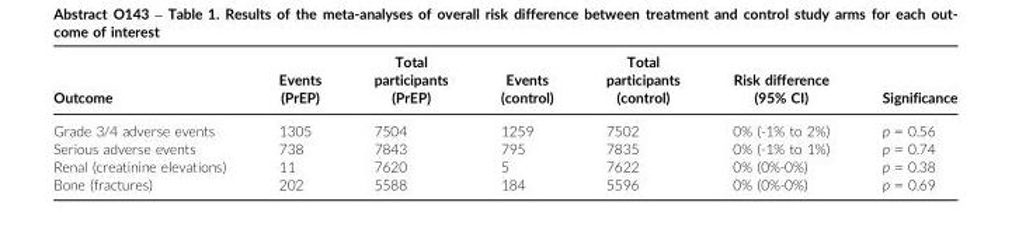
<table><thead><tr><td>Outcome</td><td>Events (PrEP)</td><td>Total participants (PrEP)</td><td>Events (control)</td><td>Total participants (control)</td><td>Risk difference (95% CI)</td><td>Significance</td></tr></thead><tbody><tr><td>Grade 3/4 adverse events</td><td>1305</td><td>7504</td><td>1259</td><td>7502</td><td>0% (-1% to 2%)</td><td>p = 0.56</td></tr><tr><td>Serious adverse events</td><td>738</td><td>7843</td><td>795</td><td>7835</td><td>0% (-1% to 1%)</td><td>p = 0.74</td></tr><tr><td>Renal (creatinine elevations)</td><td>11</td><td>7620</td><td>5</td><td>7622</td><td>0% (0%-0%)</td><td>p = 0.38</td></tr><tr><td>Bone (fractures)</td><td>202</td><td>5588</td><td>184</td><td>5596</td><td>0% (0%-0%)</td><td>p = 0.69</td></tr></tbody></table>